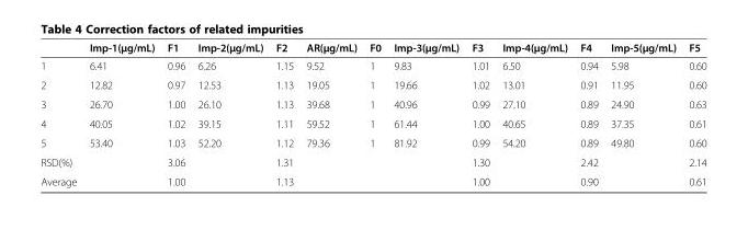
<table><thead><tr><td></td><td>Imp-1(μg/mL)</td><td>F1</td><td>Imp-2(μg/mL)</td><td>F2</td><td>AR(μg/mL)</td><td>F0</td><td>Imp-3(μg/mL)</td><td>F3</td><td>Imp-4(μg/mL)</td><td>F4</td><td>Imp-5(μg/mL)</td><td>F5</td></tr></thead><tbody><tr><td>1</td><td>6.41</td><td>0.96</td><td>6.26</td><td>1.15</td><td>9.52</td><td>1</td><td>9.83</td><td>1.01</td><td>6.50</td><td>0.94</td><td>5.98</td><td>0.60</td></tr><tr><td>2</td><td>12.82</td><td>0.97</td><td>12.53</td><td>1.13</td><td>19.05</td><td>1</td><td>19.66</td><td>1.02</td><td>13.01</td><td>0.91</td><td>11.95</td><td>0.60</td></tr><tr><td>3</td><td>26.70</td><td>1.00</td><td>26.10</td><td>1.13</td><td>39.68</td><td>1</td><td>40.96</td><td>0.99</td><td>27.10</td><td>0.89</td><td>24.90</td><td>0.63</td></tr><tr><td>4</td><td>40.05</td><td>1.02</td><td>39.15</td><td>1.11</td><td>59.52</td><td>1</td><td>61.44</td><td>1.00</td><td>40.65</td><td>0.89</td><td>37.35</td><td>0.61</td></tr><tr><td>5</td><td>53.40</td><td>1.03</td><td>52.20</td><td>1.12</td><td>79.36</td><td>1</td><td>81.92</td><td>0.99</td><td>54.20</td><td>0.89</td><td>49.80</td><td>0.60</td></tr><tr><td>RSD(%)</td><td></td><td>3.06</td><td></td><td>1.31</td><td></td><td></td><td></td><td>1.30</td><td></td><td>2.42</td><td></td><td>2.14</td></tr><tr><td>Average</td><td></td><td>1.00</td><td></td><td>1.13</td><td></td><td></td><td></td><td>1.00</td><td></td><td>0.90</td><td></td><td>0.61</td></tr></tbody></table>